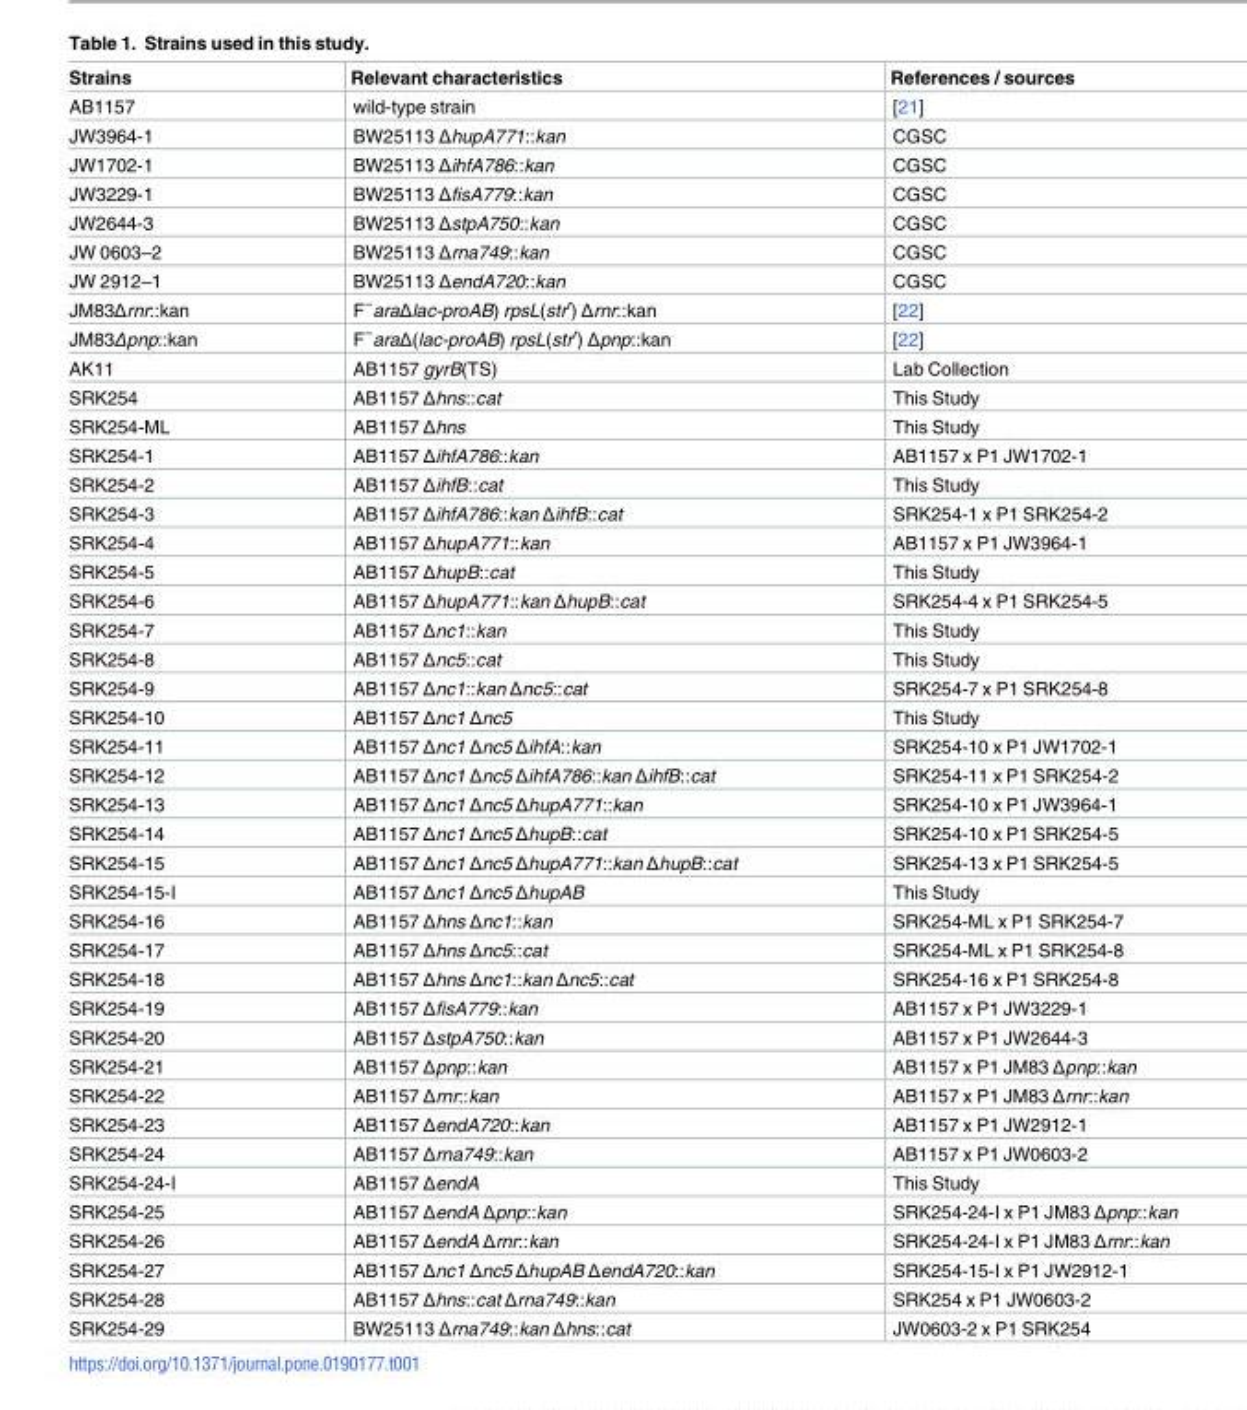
<table><thead><tr><td>Strains</td><td>Relevant characteristics</td><td>References / sources</td></tr></thead><tbody><tr><td>AB1157</td><td>wild-type strain</td><td>[21]</td></tr><tr><td>JW3964-1</td><td>BW25113 ΔhupA771::kan</td><td>CGSC</td></tr><tr><td>JW1702-1</td><td>BW25113 ΔihfA786::kan</td><td>CGSC</td></tr><tr><td>JW3229-1</td><td>BW25113 ΔfisA779::kan</td><td>CGSC</td></tr><tr><td>JW2644-3</td><td>BW25113 ΔstpA750::kan</td><td>CGSC</td></tr><tr><td>JW 0603–2</td><td>BW25113 Δrna749::kan</td><td>CGSC</td></tr><tr><td>JW 2912–1</td><td>BW25113 ΔendA720::kan</td><td>CGSC</td></tr><tr><td>JM83Δrnr::kan</td><td>F<sup>−</sup>araΔlac-proAB) rpsL(str<sup>r</sup>) Δrnr::kan</td><td>[22]</td></tr><tr><td>JM83Δpnp::kan</td><td>F<sup>−</sup>araΔ(lac-proAB) rpsL(str<sup>r</sup>) Δpnp::kan</td><td>[22]</td></tr><tr><td>AK11</td><td>AB1157 gyrB(TS)</td><td>Lab Collection</td></tr><tr><td>SRK254</td><td>AB1157 Δhns::cat</td><td>This Study</td></tr><tr><td>SRK254-ML</td><td>AB1157 Δhns</td><td>This Study</td></tr><tr><td>SRK254-1</td><td>AB1157 ΔihfA786::kan</td><td>AB1157 x P1 JW1702-1</td></tr><tr><td>SRK254-2</td><td>AB1157 ΔihfB::cat</td><td>This Study</td></tr><tr><td>SRK254-3</td><td>AB1157 ΔihfA786::kan ΔihfB::cat</td><td>SRK254-1 x P1 SRK254-2</td></tr><tr><td>SRK254-4</td><td>AB1157 ΔhupA771::kan</td><td>AB1157 x P1 JW3964-1</td></tr><tr><td>SRK254-5</td><td>AB1157 ΔhupB::cat</td><td>This Study</td></tr><tr><td>SRK254-6</td><td>AB1157 ΔhupA771::kan ΔhupB::cat</td><td>SRK254-4 x P1 SRK254-5</td></tr><tr><td>SRK254-7</td><td>AB1157 Δnc1::kan</td><td>This Study</td></tr><tr><td>SRK254-8</td><td>AB1157 Δnc5::cat</td><td>This Study</td></tr><tr><td>SRK254-9</td><td>AB1157 Δnc1::kan Δnc5::cat</td><td>SRK254-7 x P1 SRK254-8</td></tr><tr><td>SRK254-10</td><td>AB1157 Δnc1 Δnc5</td><td>This Study</td></tr><tr><td>SRK254-11</td><td>AB1157 Δnc1 Δnc5 ΔihfA::kan</td><td>SRK254-10 x P1 JW1702-1</td></tr><tr><td>SRK254-12</td><td>AB1157 Δnc1 Δnc5 ΔihfA786::kan ΔihfB::cat</td><td>SRK254-11 x P1 SRK254-2</td></tr><tr><td>SRK254-13</td><td>AB1157 Δnc1 Δnc5 ΔhupA771::kan</td><td>SRK254-10 x P1 JW3964-1</td></tr><tr><td>SRK254-14</td><td>AB1157 Δnc1 Δnc5 ΔhupB::cat</td><td>SRK254-10 x P1 SRK254-5</td></tr><tr><td>SRK254-15</td><td>AB1157 Δnc1 Δnc5 ΔhupA771::kan ΔhupB::cat</td><td>SRK254-13 x P1 SRK254-5</td></tr><tr><td>SRK254-15-I</td><td>AB1157 Δnc1 Δnc5 ΔhupAB</td><td>This Study</td></tr><tr><td>SRK254-16</td><td>AB1157 Δhns Δnc1::kan</td><td>SRK254-ML x P1 SRK254-7</td></tr><tr><td>SRK254-17</td><td>AB1157 Δhns Δnc5::cat</td><td>SRK254-ML x P1 SRK254-8</td></tr><tr><td>SRK254-18</td><td>AB1157 Δhns Δnc1::kan Δnc5::cat</td><td>SRK254-16 x P1 SRK254-8</td></tr><tr><td>SRK254-19</td><td>AB1157 ΔfisA779::kan</td><td>AB1157 x P1 JW3229-1</td></tr><tr><td>SRK254-20</td><td>AB1157 ΔstpA750::kan</td><td>AB1157 x P1 JW2644-3</td></tr><tr><td>SRK254-21</td><td>AB1157 Δpnp::kan</td><td>AB1157 x P1 JM83 Δpnp::kan</td></tr><tr><td>SRK254-22</td><td>AB1157 Δrnr::kan</td><td>AB1157 x P1 JM83 Δrnr::kan</td></tr><tr><td>SRK254-23</td><td>AB1157 ΔendA720::kan</td><td>AB1157 x P1 JW2912-1</td></tr><tr><td>SRK254-24</td><td>AB1157 Δrna749::kan</td><td>AB1157 x P1 JW0603-2</td></tr><tr><td>SRK254-24-I</td><td>AB1157 ΔendA</td><td>This Study</td></tr><tr><td>SRK254-25</td><td>AB1157 ΔendA Δpnp::kan</td><td>SRK254-24-I x P1 JM83 Δpnp::kan</td></tr><tr><td>SRK254-26</td><td>AB1157 ΔendA Δrnr::kan</td><td>SRK254-24-I x P1 JM83 Δrnr::kan</td></tr><tr><td>SRK254-27</td><td>AB1157 Δnc1 Δnc5 ΔhupAB ΔendA720::kan</td><td>SRK254-15-I x P1 JW2912-1</td></tr><tr><td>SRK254-28</td><td>AB1157 Δhns::cat Δrna749::kan</td><td>SRK254 x P1 JW0603-2</td></tr><tr><td>SRK254-29</td><td>BW25113 Δrna749::kan Δhns::cat</td><td>JW0603-2 x P1 SRK254</td></tr></tbody></table>